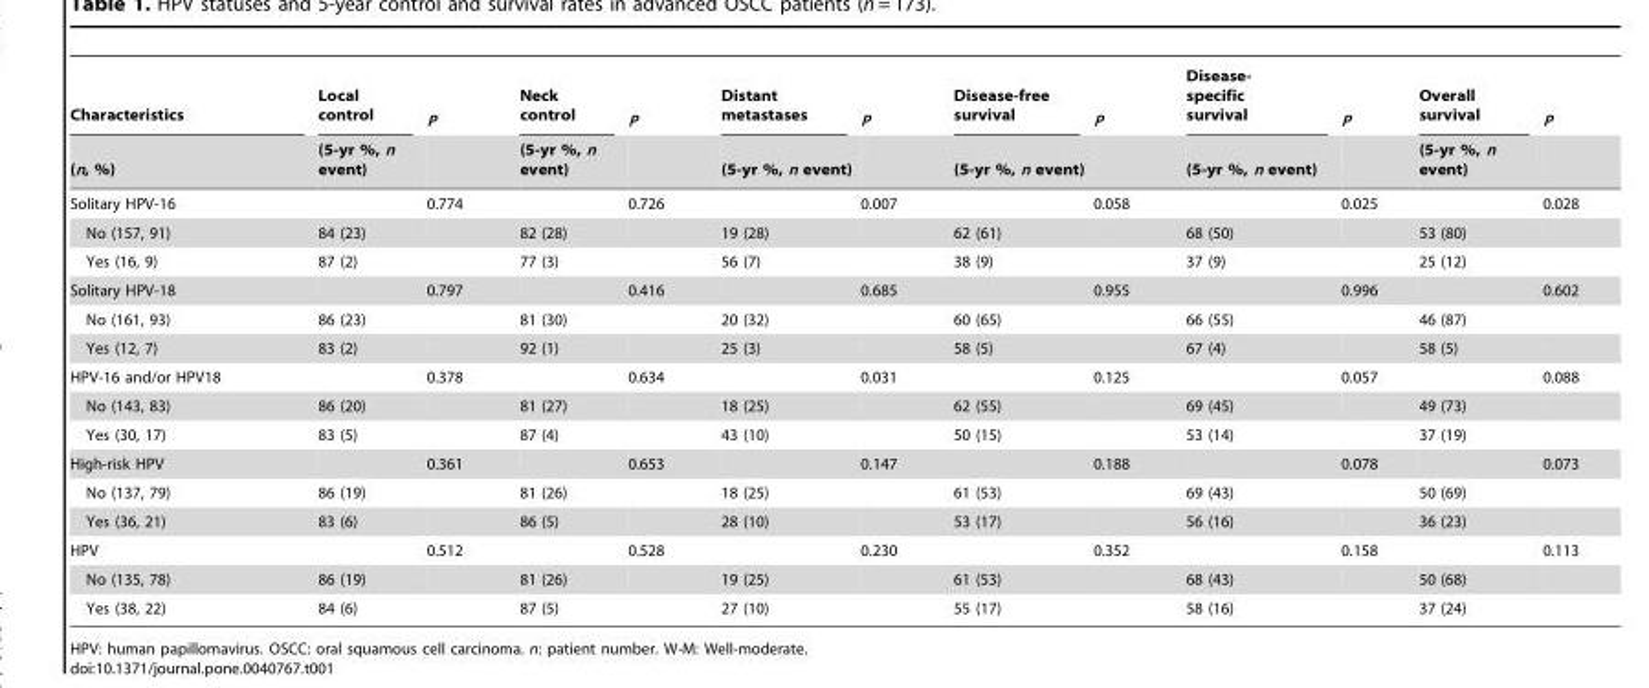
<table><thead><tr><td rowspan="2">Characteristics (n, %)</td><td rowspan="2">Local control (5-yr %, n event)</td><td rowspan="2">P</td><td rowspan="2">Neck control (5-yr %, n event)</td><td rowspan="2">P</td><td rowspan="2">Distant metastases (5-yr %, n event)</td><td rowspan="2">P</td><td rowspan="2">Disease-free survival (5-yr %, n event)</td><td rowspan="2">P</td><td rowspan="2">Disease- specific survival (5-yr %, n event)</td><td rowspan="2">P</td><td rowspan="2">Overall survival (5-yr %, n event)</td><td rowspan="2">P</td></tr><tr></tr></thead><tbody><tr><td>Solitary HPV-16</td><td></td><td>0.774</td><td></td><td>0.726</td><td></td><td>0.007</td><td></td><td>0.058</td><td></td><td>0.025</td><td></td><td>0.028</td></tr><tr><td>No (157, 91)</td><td>84 (23)</td><td></td><td>82 (28)</td><td></td><td>19 (28)</td><td></td><td>62 (61)</td><td></td><td>68 (50)</td><td></td><td>53 (80)</td><td></td></tr><tr><td>Yes (16, 9)</td><td>87 (2)</td><td></td><td>77 (3)</td><td></td><td>56 (7)</td><td></td><td>38 (9)</td><td></td><td>37 (9)</td><td></td><td>25 (12)</td><td></td></tr><tr><td>Solitary HPV-18</td><td></td><td>0.797</td><td></td><td>0.416</td><td></td><td>0.685</td><td></td><td>0.955</td><td></td><td>0.996</td><td></td><td>0.602</td></tr><tr><td>No (161, 93)</td><td>86 (23)</td><td></td><td>81 (30)</td><td></td><td>20 (32)</td><td></td><td>60 (65)</td><td></td><td>66 (55)</td><td></td><td>46 (87)</td><td></td></tr><tr><td>Yes (12, 7)</td><td>83 (2)</td><td></td><td>92 (1)</td><td></td><td>25 (3)</td><td></td><td>58 (5)</td><td></td><td>67 (4)</td><td></td><td>58 (5)</td><td></td></tr><tr><td>HPV-16 and/or HPV18</td><td></td><td>0.378</td><td></td><td>0.634</td><td></td><td>0.031</td><td></td><td>0.125</td><td></td><td>0.057</td><td></td><td>0.088</td></tr><tr><td>No (143, 83)</td><td>86 (20)</td><td></td><td>81 (27)</td><td></td><td>18 (25)</td><td></td><td>62 (55)</td><td></td><td>69 (45)</td><td></td><td>49 (73)</td><td></td></tr><tr><td>Yes (30, 17)</td><td>83 (5)</td><td></td><td>87 (4)</td><td></td><td>43 (10)</td><td></td><td>50 (15)</td><td></td><td>53 (14)</td><td></td><td>37 (19)</td><td></td></tr><tr><td>High-risk HPV</td><td></td><td>0.361</td><td></td><td>0.653</td><td></td><td>0.147</td><td></td><td>0.188</td><td></td><td>0.078</td><td></td><td>0.073</td></tr><tr><td>No (137, 79)</td><td>86 (19)</td><td></td><td>81 (26)</td><td></td><td>18 (25)</td><td></td><td>61 (53)</td><td></td><td>69 (43)</td><td></td><td>50 (69)</td><td></td></tr><tr><td>Yes (36, 21)</td><td>83 (6)</td><td></td><td>86 (5)</td><td></td><td>28 (10)</td><td></td><td>53 (17)</td><td></td><td>56 (16)</td><td></td><td>36 (23)</td><td></td></tr><tr><td>HPV</td><td></td><td>0.512</td><td></td><td>0.528</td><td></td><td>0.230</td><td></td><td>0.352</td><td></td><td>0.158</td><td></td><td>0.113</td></tr><tr><td>No (135, 78)</td><td>86 (19)</td><td></td><td>81 (26)</td><td></td><td>19 (25)</td><td></td><td>61 (53)</td><td></td><td>68 (43)</td><td></td><td>50 (68)</td><td></td></tr><tr><td>Yes (38, 22)</td><td>84 (6)</td><td></td><td>87 (5)</td><td></td><td>27 (10)</td><td></td><td>55 (17)</td><td></td><td>58 (16)</td><td></td><td>37 (24)</td><td></td></tr></tbody></table>